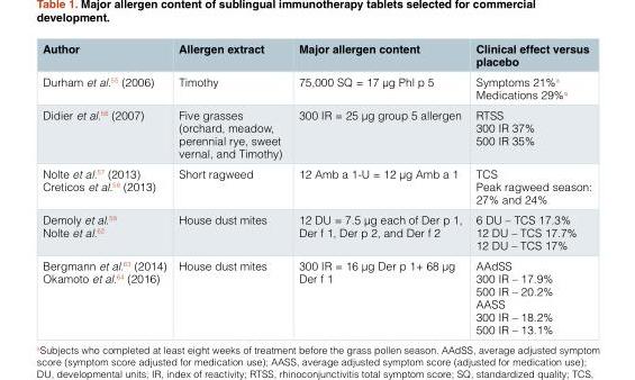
<table><thead><tr><td>Author</td><td>Allergen extract</td><td>Major allergen content</td><td>Clinical effect versus placebo</td></tr></thead><tbody><tr><td>Durham et al.<sup>55</sup> (2006)</td><td>Timothy</td><td>75,000 SQ = 17 μg Phl p 5</td><td>Symptoms 21%<sup>a</sup> Medications 29%<sup>a</sup></td></tr><tr><td>Didier et al.<sup>56</sup> (2007)</td><td>Five grasses (orchard, meadow, perennial rye, sweet vernal, and Timothy)</td><td>300 IR = 25 μg group 5 allergen</td><td>RTSS 300 IR 37% 500 IR 35%</td></tr><tr><td>Nolte et al.<sup>57</sup> (2013) Creticos et al.<sup>58</sup> (2013)</td><td>Short ragweed</td><td>12 Amb a 1-U = 12 μg Amb a 1</td><td>TCS Peak ragweed season: 27% and 24%</td></tr><tr><td>Demoly et al.<sup>59</sup> Nolte et al.<sup>62</sup></td><td>House dust mites</td><td>12 DU = 7.5 μg each of Der p 1, Der f 1, Der p 2, and Der f 2</td><td>6 DU – TCS 17.3% 12 DU – TCS 17.7% 12 DU – TCS 17%</td></tr><tr><td>Bergmann et al.<sup>63</sup> (2014) Okamoto et al.<sup>64</sup> (2016)</td><td>House dust mites</td><td>300 IR = 16 μg Der p 1+ 68 μg Der f 1</td><td>AAdSS 300 IR – 17.9% 500 IR – 20.2% AASS 300 IR – 18.2% 500 IR – 13.1%</td></tr></tbody></table>